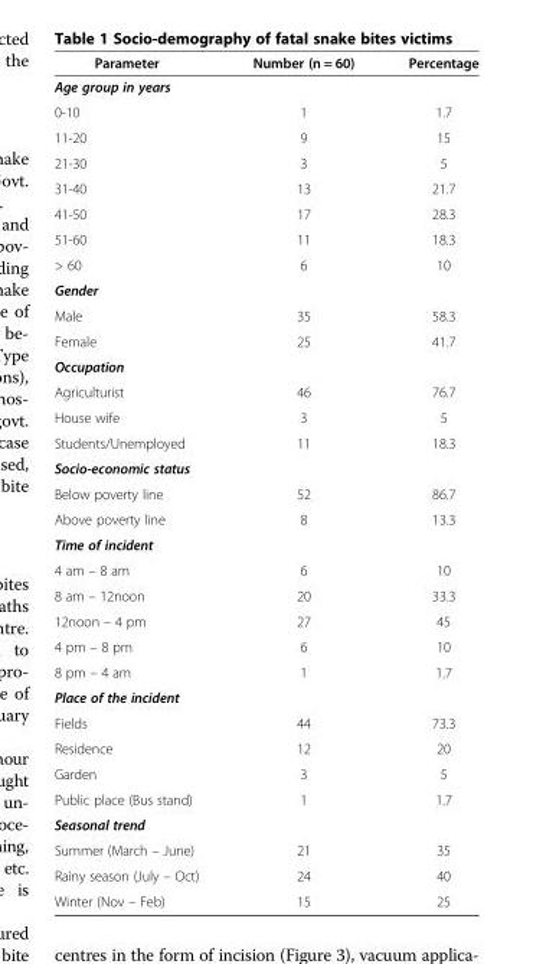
<table><thead><tr><td>Parameter</td><td>Number (n = 60)</td><td>Percentage</td></tr></thead><tbody><tr><td colspan="3">Age group in years</td></tr><tr><td>0-10</td><td>1</td><td>1.7</td></tr><tr><td>11-20</td><td>9</td><td>15</td></tr><tr><td>21-30</td><td>3</td><td>5</td></tr><tr><td>31-40</td><td>13</td><td>21.7</td></tr><tr><td>41-50</td><td>17</td><td>28.3</td></tr><tr><td>51-60</td><td>11</td><td>18.3</td></tr><tr><td>&gt; 60</td><td>6</td><td>10</td></tr><tr><td colspan="3">Gender</td></tr><tr><td>Male</td><td>35</td><td>58.3</td></tr><tr><td>Female</td><td>25</td><td>41.7</td></tr><tr><td colspan="3">Occupation</td></tr><tr><td>Agriculturist</td><td>46</td><td>76.7</td></tr><tr><td>House wife</td><td>3</td><td>5</td></tr><tr><td>Students/Unemployed</td><td>11</td><td>18.3</td></tr><tr><td colspan="3">Socio-economic status</td></tr><tr><td>Below poverty line</td><td>52</td><td>86.7</td></tr><tr><td>Above poverty line</td><td>8</td><td>13.3</td></tr><tr><td colspan="3">Time of incident</td></tr><tr><td>4 am – 8 am</td><td>6</td><td>10</td></tr><tr><td>8 am – 12noon</td><td>20</td><td>33.3</td></tr><tr><td>12noon – 4 pm</td><td>27</td><td>45</td></tr><tr><td>4 pm – 8 pm</td><td>6</td><td>10</td></tr><tr><td>8 pm – 4 am</td><td>1</td><td>1.7</td></tr><tr><td colspan="3">Place of the incident</td></tr><tr><td>Fields</td><td>44</td><td>73.3</td></tr><tr><td>Residence</td><td>12</td><td>20</td></tr><tr><td>Garden</td><td>3</td><td>5</td></tr><tr><td>Public place (Bus stand)</td><td>1</td><td>1.7</td></tr><tr><td colspan="3">Seasonal trend</td></tr><tr><td>Summer (March – June)</td><td>21</td><td>35</td></tr><tr><td>Rainy season (July – Oct)</td><td>24</td><td>40</td></tr><tr><td>Winter (Nov – Feb)</td><td>15</td><td>25</td></tr></tbody></table>